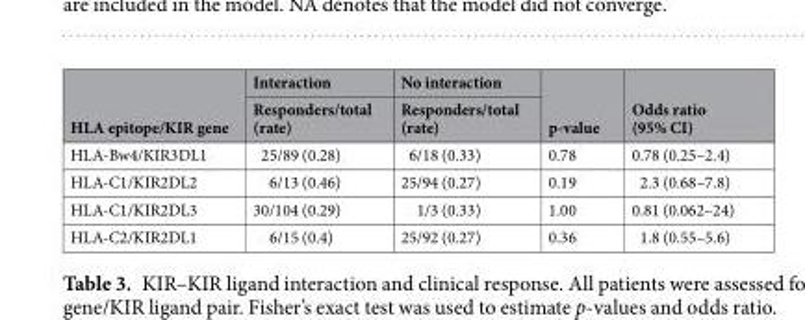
<table><thead><tr><td rowspan="2">HLA epitope/KIR gene</td><td rowspan="2">Interaction Responders/total (rate)</td><td rowspan="2">No interaction Responders/total (rate)</td><td rowspan="2">p-value</td><td rowspan="2">Odds ratio (95% CI)</td></tr><tr></tr></thead><tbody><tr><td>HLA-Bw4/KIR3DL1</td><td>25/89 (0.28)</td><td>6/18 (0.33)</td><td>0.78</td><td>0.78 (0.25–2.4)</td></tr><tr><td>HLA-C1/KIR2DL2</td><td>6/13 (0.46)</td><td>25/94 (0.27)</td><td>0.19</td><td>2.3 (0.68–7.8)</td></tr><tr><td>HLA-C1/KIR2DL3</td><td>30/104 (0.29)</td><td>1/3 (0.33)</td><td>1.00</td><td>0.81 (0.062–24)</td></tr><tr><td>HLA-C2/KIR2DL1</td><td>6/15 (0.4)</td><td>25/92 (0.27)</td><td>0.36</td><td>1.8 (0.55–5.6)</td></tr></tbody></table>